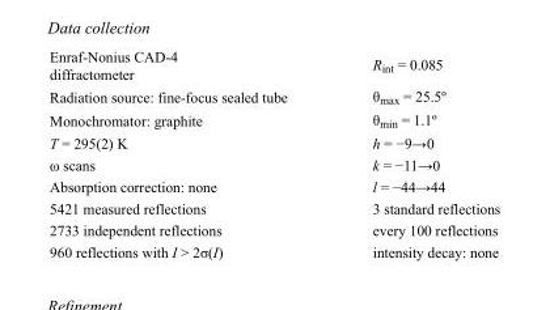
<table><tbody><tr><td>Enraf-Nonius CAD-4 diffractometer</td><td>R<sub>int</sub> = 0.085</td></tr><tr><td>Radiation source: fine-focus sealed tube</td><td>θ<sub>max</sub> = 25.5º</td></tr><tr><td>Monochromator: graphite</td><td>θ<sub>min</sub> = 1.1º</td></tr><tr><td>T = 295(2) K</td><td>h = −9→0</td></tr><tr><td>ω scans</td><td>k = −11→0</td></tr><tr><td>Absorption correction: none</td><td>l = −44→44</td></tr><tr><td>5421 measured reflections</td><td>3 standard reflections</td></tr><tr><td>2733 independent reflections</td><td>every 100 reflections</td></tr><tr><td>960 reflections with I &gt; 2σ(I)</td><td>intensity decay: none</td></tr></tbody></table>